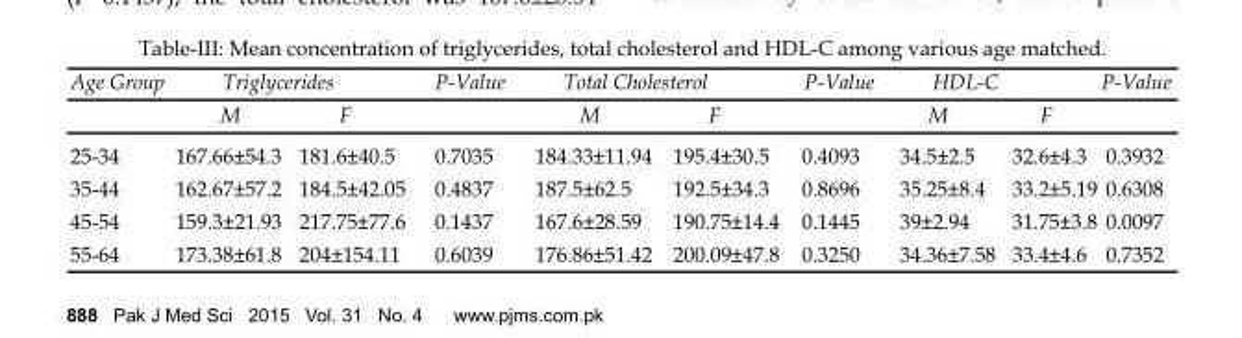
<table><thead><tr><td rowspan="2">Age Group</td><td colspan="2">Triglycerides</td><td rowspan="2">P-Value</td><td colspan="2">Total Cholesterol</td><td rowspan="2">P-Value</td><td colspan="2">HDL-C</td><td rowspan="2">P-Value</td></tr><tr><td>M</td><td>F</td><td>M</td><td>F</td><td>M</td><td>F</td></tr></thead><tbody><tr><td>25-34</td><td>167.66±54.3</td><td>181.6±40.5</td><td>0.7035</td><td>184.33±11.94</td><td>195.4±30.5</td><td>0.4093</td><td>34.5±2.5</td><td>32.6±4.3</td><td>0.3932</td></tr><tr><td>35-44</td><td>162.67±57.2</td><td>184.5±42.05</td><td>0.4837</td><td>187.5±62.5</td><td>192.5±34.3</td><td>0.8696</td><td>35.25±8.4</td><td>33.2±5.19</td><td>0.6308</td></tr><tr><td>45-54</td><td>159.3±21.93</td><td>217.75±77.6</td><td>0.1437</td><td>167.6±28.59</td><td>190.75±14.4</td><td>0.1445</td><td>39±2.94</td><td>31.75±3.8</td><td>0.0097</td></tr><tr><td>55-64</td><td>173.38±61.8</td><td>204±154.11</td><td>0.6039</td><td>176.86±51.42</td><td>200.09±47.8</td><td>0.3250</td><td>34.36±7.58</td><td>33.4±4.6</td><td>0.7352</td></tr></tbody></table>